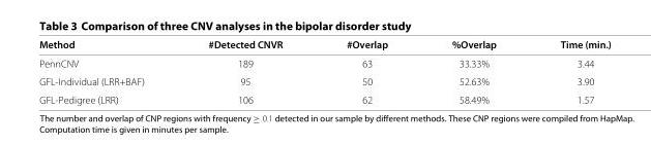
<table><thead><tr><td>Method</td><td>#Detected CNVR</td><td>#Overlap</td><td>%Overlap</td><td>Time (min.)</td></tr></thead><tbody><tr><td>PennCNV</td><td>189</td><td>63</td><td>33.33%</td><td>3.44</td></tr><tr><td>GFL-Individual (LRR+BAF)</td><td>95</td><td>50</td><td>52.63%</td><td>3.90</td></tr><tr><td>GFL-Pedigree (LRR)</td><td>106</td><td>62</td><td>58.49%</td><td>1.57</td></tr></tbody></table>